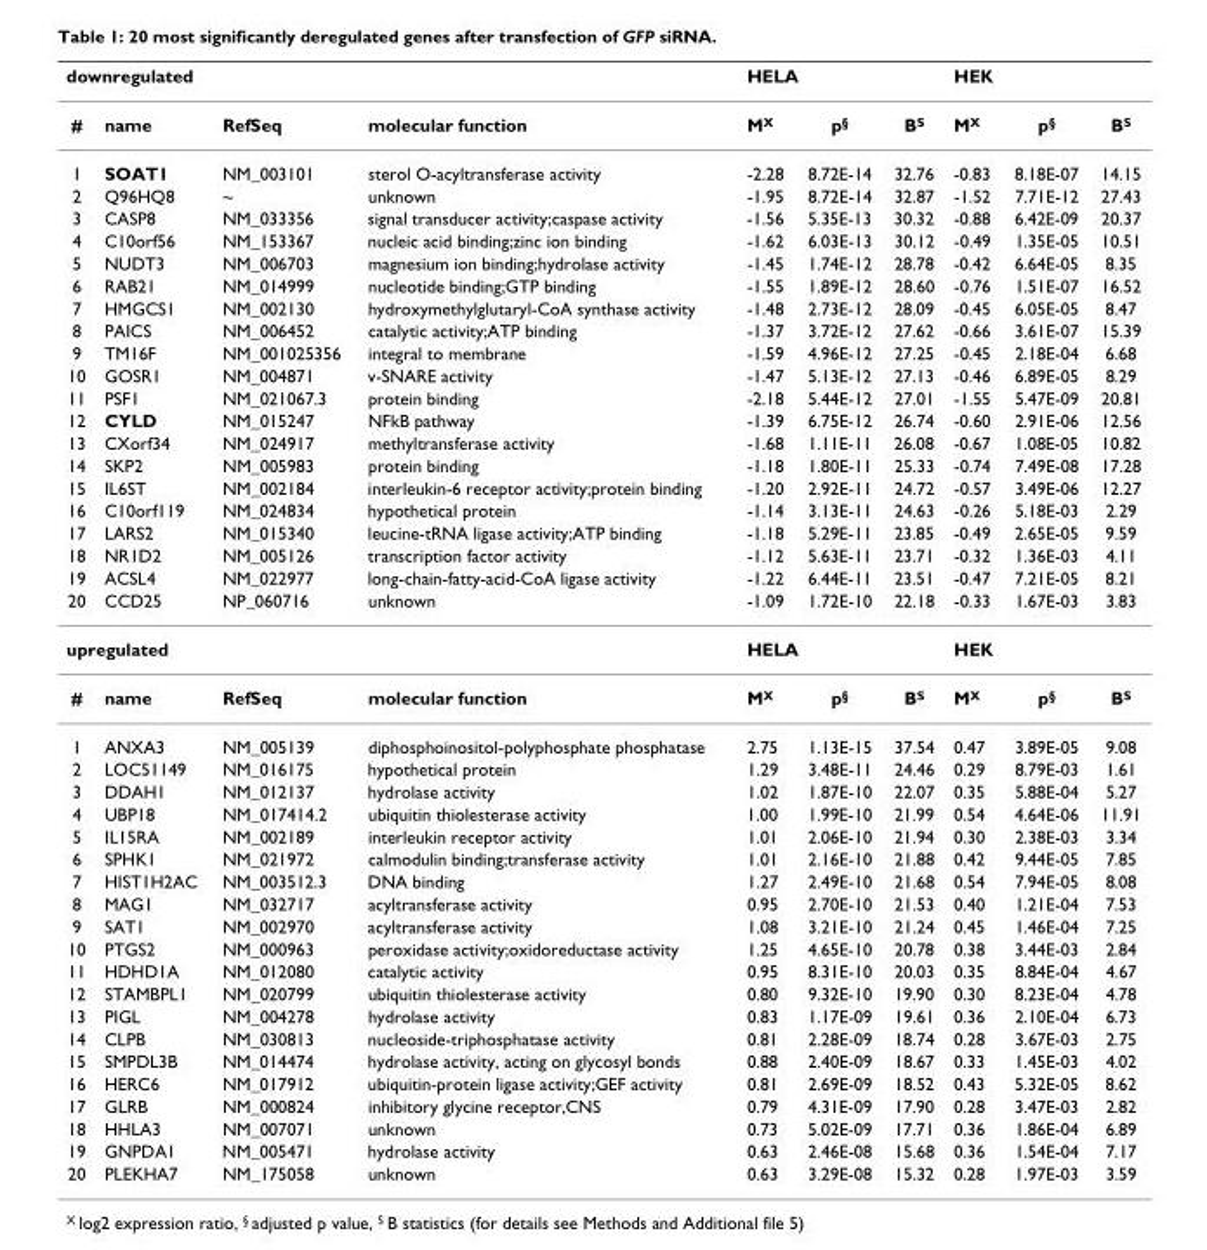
<table><thead><tr><td colspan="4">downregulated</td><td colspan="3">HELA</td><td colspan="3">HEK</td></tr><tr><td>#</td><td>name</td><td>RefSeq</td><td>molecular function</td><td>M<sup>X</sup></td><td>p<sup>§</sup></td><td>B<sup>S</sup></td><td>M<sup>X</sup></td><td>p<sup>§</sup></td><td>B<sup>S</sup></td></tr></thead><tbody><tr><td>1</td><td>SOAT1</td><td>NM_003101</td><td>sterol O-acyltransferase activity</td><td>-2.28</td><td>8.72E-14</td><td>32.76</td><td>-0.83</td><td>8.18E-07</td><td>14.15</td></tr><tr><td>2</td><td>Q96HQ8</td><td>~</td><td>unknown</td><td>-1.95</td><td>8.72E-14</td><td>32.87</td><td>-1.52</td><td>7.71E-12</td><td>27.43</td></tr><tr><td>3</td><td>CASP8</td><td>NM_033356</td><td>signal transducer activity;caspase activity</td><td>-1.56</td><td>5.35E-13</td><td>30.32</td><td>-0.88</td><td>6.42E-09</td><td>20.37</td></tr><tr><td>4</td><td>C10orf56</td><td>NM_153367</td><td>nucleic acid binding;zinc ion binding</td><td>-1.62</td><td>6.03E-13</td><td>30.12</td><td>-0.49</td><td>1.35E-05</td><td>10.51</td></tr><tr><td>5</td><td>NUDT3</td><td>NM_006703</td><td>magnesium ion binding;hydrolase activity</td><td>-1.45</td><td>1.74E-12</td><td>28.78</td><td>-0.42</td><td>6.64E-05</td><td>8.35</td></tr><tr><td>6</td><td>RAB21</td><td>NM_014999</td><td>nucleotide binding;GTP binding</td><td>-1.55</td><td>1.89E-12</td><td>28.60</td><td>-0.76</td><td>1.51E-07</td><td>16.52</td></tr><tr><td>7</td><td>HMGCS1</td><td>NM_002130</td><td>hydroxymethylglutaryl-CoA synthase activity</td><td>-1.48</td><td>2.73E-12</td><td>28.09</td><td>-0.45</td><td>6.05E-05</td><td>8.47</td></tr><tr><td>8</td><td>PAICS</td><td>NM_006452</td><td>catalytic activity;ATP binding</td><td>-1.37</td><td>3.72E-12</td><td>27.62</td><td>-0.66</td><td>3.61E-07</td><td>15.39</td></tr><tr><td>9</td><td>TM16F</td><td>NM_001025356</td><td>integral to membrane</td><td>-1.59</td><td>4.96E-12</td><td>27.25</td><td>-0.45</td><td>2.18E-04</td><td>6.68</td></tr><tr><td>10</td><td>GOSR1</td><td>NM_004871</td><td>v-SNARE activity</td><td>-1.47</td><td>5.13E-12</td><td>27.13</td><td>-0.46</td><td>6.89E-05</td><td>8.29</td></tr><tr><td>11</td><td>PSF1</td><td>NM_021067.3</td><td>protein binding</td><td>-2.18</td><td>5.44E-12</td><td>27.01</td><td>-1.55</td><td>5.47E-09</td><td>20.81</td></tr><tr><td>12</td><td>CYLD</td><td>NM_015247</td><td>NFkB pathway</td><td>-1.39</td><td>6.75E-12</td><td>26.74</td><td>-0.60</td><td>2.91E-06</td><td>12.56</td></tr><tr><td>13</td><td>CXorf34</td><td>NM_024917</td><td>methyltransferase activity</td><td>-1.68</td><td>1.11E-11</td><td>26.08</td><td>-0.67</td><td>1.08E-05</td><td>10.82</td></tr><tr><td>14</td><td>SKP2</td><td>NM_005983</td><td>protein binding</td><td>-1.18</td><td>1.80E-11</td><td>25.33</td><td>-0.74</td><td>7.49E-08</td><td>17.28</td></tr><tr><td>15</td><td>IL6ST</td><td>NM_002184</td><td>interleukin-6 receptor activity;protein binding</td><td>-1.20</td><td>2.92E-11</td><td>24.72</td><td>-0.57</td><td>3.49E-06</td><td>12.27</td></tr><tr><td>16</td><td>C10orf119</td><td>NM_024834</td><td>hypothetical protein</td><td>-1.14</td><td>3.13E-11</td><td>24.63</td><td>-0.26</td><td>5.18E-03</td><td>2.29</td></tr><tr><td>17</td><td>LARS2</td><td>NM_015340</td><td>leucine-tRNA ligase activity;ATP binding</td><td>-1.18</td><td>5.29E-11</td><td>23.85</td><td>-0.49</td><td>2.65E-05</td><td>9.59</td></tr><tr><td>18</td><td>NR1D2</td><td>NM_005126</td><td>transcription factor activity</td><td>-1.12</td><td>5.63E-11</td><td>23.71</td><td>-0.32</td><td>1.36E-03</td><td>4.11</td></tr><tr><td>19</td><td>ACSL4</td><td>NM_022977</td><td>long-chain-fatty-acid-CoA ligase activity</td><td>-1.22</td><td>6.44E-11</td><td>23.51</td><td>-0.47</td><td>7.21E-05</td><td>8.21</td></tr><tr><td>20</td><td>CCD25</td><td>NP_060716</td><td>unknown</td><td>-1.09</td><td>1.72E-10</td><td>22.18</td><td>-0.33</td><td>1.67E-03</td><td>3.83</td></tr><tr><td colspan="4">upregulated</td><td colspan="3">HELA</td><td colspan="3">HEK</td></tr><tr><td>#</td><td>name</td><td>RefSeq</td><td>molecular function</td><td>M<sup>X</sup></td><td>p<sup>§</sup></td><td>B<sup>S</sup></td><td>M<sup>X</sup></td><td>p<sup>§</sup></td><td>B<sup>S</sup></td></tr><tr><td>1</td><td>ANXA3</td><td>NM_005139</td><td>diphosphoinositol-polyphosphate phosphatase</td><td>2.75</td><td>1.13E-15</td><td>37.54</td><td>0.47</td><td>3.89E-05</td><td>9.08</td></tr><tr><td>2</td><td>LOC51149</td><td>NM_016175</td><td>hypothetical protein</td><td>1.29</td><td>3.48E-11</td><td>24.46</td><td>0.29</td><td>8.79E-03</td><td>1.61</td></tr><tr><td>3</td><td>DDAH1</td><td>NM_012137</td><td>hydrolase activity</td><td>1.02</td><td>1.87E-10</td><td>22.07</td><td>0.35</td><td>5.88E-04</td><td>5.27</td></tr><tr><td>4</td><td>UBP18</td><td>NM_017414.2</td><td>ubiquitin thiolesterase activity</td><td>1.00</td><td>1.99E-10</td><td>21.99</td><td>0.54</td><td>4.64E-06</td><td>11.91</td></tr><tr><td>5</td><td>IL15RA</td><td>NM_002189</td><td>interleukin receptor activity</td><td>1.01</td><td>2.06E-10</td><td>21.94</td><td>0.30</td><td>2.38E-03</td><td>3.34</td></tr><tr><td>6</td><td>SPHK1</td><td>NM_021972</td><td>calmodulin binding;transferase activity</td><td>1.01</td><td>2.16E-10</td><td>21.88</td><td>0.42</td><td>9.44E-05</td><td>7.85</td></tr><tr><td>7</td><td>HIST1H2AC</td><td>NM_003512.3</td><td>DNA binding</td><td>1.27</td><td>2.49E-10</td><td>21.68</td><td>0.54</td><td>7.94E-05</td><td>8.08</td></tr><tr><td>8</td><td>MAG1</td><td>NM_032717</td><td>acyltransferase activity</td><td>0.95</td><td>2.70E-10</td><td>21.53</td><td>0.40</td><td>1.21E-04</td><td>7.53</td></tr><tr><td>9</td><td>SAT1</td><td>NM_002970</td><td>acyltransferase activity</td><td>1.08</td><td>3.21E-10</td><td>21.24</td><td>0.45</td><td>1.46E-04</td><td>7.25</td></tr><tr><td>10</td><td>PTGS2</td><td>NM_000963</td><td>peroxidase activity;oxidoreductase activity</td><td>1.25</td><td>4.65E-10</td><td>20.78</td><td>0.38</td><td>3.44E-03</td><td>2.84</td></tr><tr><td>11</td><td>HDHD1A</td><td>NM_012080</td><td>catalytic activity</td><td>0.95</td><td>8.31E-10</td><td>20.03</td><td>0.35</td><td>8.84E-04</td><td>4.67</td></tr><tr><td>12</td><td>STAMBPL1</td><td>NM_020799</td><td>ubiquitin thiolesterase activity</td><td>0.80</td><td>9.32E-10</td><td>19.90</td><td>0.30</td><td>8.23E-04</td><td>4.78</td></tr><tr><td>13</td><td>PIGL</td><td>NM_004278</td><td>hydrolase activity</td><td>0.83</td><td>1.17E-09</td><td>19.61</td><td>0.36</td><td>2.10E-04</td><td>6.73</td></tr><tr><td>14</td><td>CLPB</td><td>NM_030813</td><td>nucleoside-triphosphatase activity</td><td>0.81</td><td>2.28E-09</td><td>18.74</td><td>0.28</td><td>3.67E-03</td><td>2.75</td></tr><tr><td>15</td><td>SMPDL3B</td><td>NM_014474</td><td>hydrolase activity, acting on glycosyl bonds</td><td>0.88</td><td>2.40E-09</td><td>18.67</td><td>0.33</td><td>1.45E-03</td><td>4.02</td></tr><tr><td>16</td><td>HERC6</td><td>NM_017912</td><td>ubiquitin-protein ligase activity;GEF activity</td><td>0.81</td><td>2.69E-09</td><td>18.52</td><td>0.43</td><td>5.32E-05</td><td>8.62</td></tr><tr><td>17</td><td>GLRB</td><td>NM_000824</td><td>inhibitory glycine receptor,CNS</td><td>0.79</td><td>4.31E-09</td><td>17.90</td><td>0.28</td><td>3.47E-03</td><td>2.82</td></tr><tr><td>18</td><td>HHLA3</td><td>NM_007071</td><td>unknown</td><td>0.73</td><td>5.02E-09</td><td>17.71</td><td>0.36</td><td>1.86E-04</td><td>6.89</td></tr><tr><td>19</td><td>GNPDA1</td><td>NM_005471</td><td>hydrolase activity</td><td>0.63</td><td>2.46E-08</td><td>15.68</td><td>0.36</td><td>1.54E-04</td><td>7.17</td></tr><tr><td>20</td><td>PLEKHA7</td><td>NM_175058</td><td>unknown</td><td>0.63</td><td>3.29E-08</td><td>15.32</td><td>0.28</td><td>1.97E-03</td><td>3.59</td></tr></tbody></table>